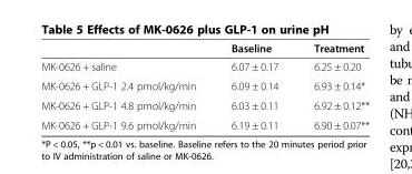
<table><thead><tr><td></td><td>Baseline</td><td>Treatment</td></tr></thead><tbody><tr><td>MK-0626 + saline</td><td>6.07 ± 0.17</td><td>6.25 ± 0.20</td></tr><tr><td>MK-0626 + GLP-1 2.4 pmol/kg/min</td><td>6.09 ± 0.14</td><td>6.93 ± 0.14*</td></tr><tr><td>MK-0626 + GLP-1 4.8 pmol/kg/min</td><td>6.03 ± 0.11</td><td>6.92 ± 0.12**</td></tr><tr><td>MK-0626 + GLP-1 9.6 pmol/kg/min</td><td>6.19 ± 0.11</td><td>6.90 ± 0.07**</td></tr></tbody></table>